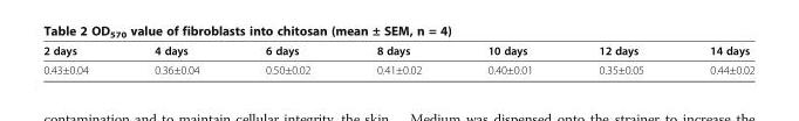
<table><thead><tr><td>2 days</td><td>4 days</td><td>6 days</td><td>8 days</td><td>10 days</td><td>12 days</td><td>14 days</td></tr></thead><tbody><tr><td>0.43±0.04</td><td>0.36±0.04</td><td>0.50±0.02</td><td>0.41±0.02</td><td>0.40±0.01</td><td>0.35±0.05</td><td>0.44±0.02</td></tr></tbody></table>